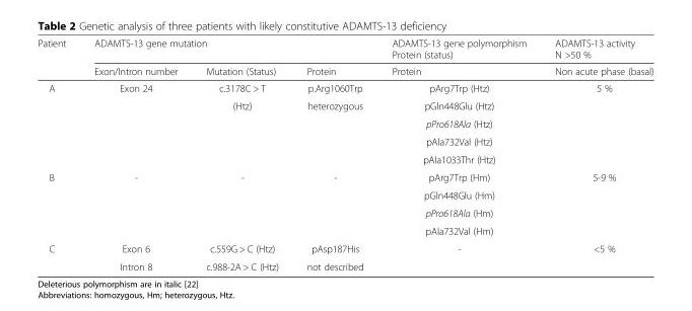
<table><thead><tr><td rowspan="2">Patient</td><td colspan="3">ADAMTS-13 gene mutation</td><td rowspan="2">ADAMTS-13 gene polymorphism Protein (status) Protein</td><td rowspan="2">ADAMTS-13 activity N &gt;50 % Non acute phase (basal)</td></tr><tr><td>Exon/Intron number</td><td>Mutation (Status)</td><td>Protein</td></tr></thead><tbody><tr><td rowspan="5">A</td><td rowspan="5">Exon 24</td><td>c.3178C &gt; T</td><td>p.Arg1060Trp</td><td>pArg7Trp (Htz)</td><td rowspan="5">5 %</td></tr><tr><td>(Htz)</td><td>heterozygous</td><td>pGln448Glu (Htz)</td></tr><tr><td rowspan="3"></td><td rowspan="3"></td><td>pPro618Ala (Htz)</td></tr><tr><td>pAla732Val (Htz)</td></tr><tr><td>pAla1033Thr (Htz)</td></tr><tr><td rowspan="4">B</td><td rowspan="4">-</td><td rowspan="4">-</td><td rowspan="4">-</td><td>pArg7Trp (Hm)</td><td rowspan="4">5-9 %</td></tr><tr><td>pGln448Glu (Hm)</td></tr><tr><td>pPro618Ala (Hm)</td></tr><tr><td>pAla732Val (Hm)</td></tr><tr><td rowspan="2">C</td><td>Exon 6</td><td>c.559G &gt; C (Htz)</td><td>pAsp187His</td><td rowspan="2">-</td><td rowspan="2">&lt;5 %</td></tr><tr><td>Intron 8</td><td>c.988-2A &gt; C (Htz)</td><td>not described</td></tr></tbody></table>